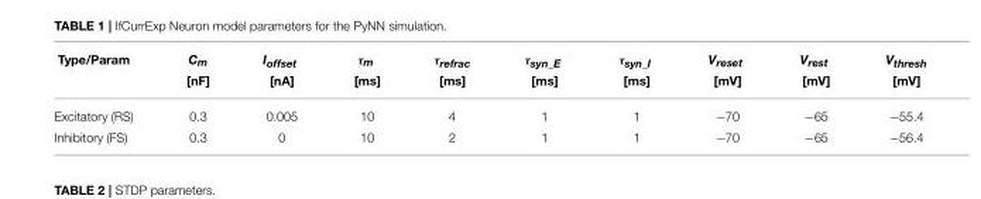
<table><thead><tr><td rowspan="2">Type/Param</td><td rowspan="2">C<sub>m</sub> [nF]</td><td rowspan="2">I<sub>offset</sub> [nA]</td><td rowspan="2">τ<sub>m</sub> [ms]</td><td rowspan="2">τ<sub>refrac</sub> [ms]</td><td rowspan="2">τ<sub>syn_E</sub> [ms]</td><td rowspan="2">τ<sub>syn_I</sub> [ms]</td><td rowspan="2">V<sub>reset</sub> [mV]</td><td rowspan="2">V<sub>rest</sub> [mV]</td><td rowspan="2">V<sub>thresh</sub> [mV]</td></tr><tr></tr></thead><tbody><tr><td>Excitatory (RS)</td><td>0.3</td><td>0.005</td><td>10</td><td>4</td><td>1</td><td>1</td><td>−70</td><td>−65</td><td>−55.4</td></tr><tr><td>Inhibitory (FS)</td><td>0.3</td><td>0</td><td>10</td><td>2</td><td>1</td><td>1</td><td>−70</td><td>−65</td><td>−56.4</td></tr></tbody></table>